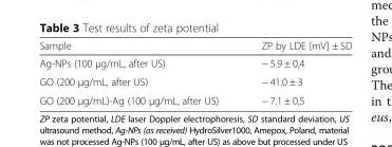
<table><thead><tr><td>Sample</td><td>ZP by LDE [mV] ± SD</td></tr></thead><tbody><tr><td>Ag-NPs (100 μg/mL, after US)</td><td>− 5.9 ± 0,4</td></tr><tr><td>GO (200 μg/mL, after US)</td><td>− 41.0 ± 3</td></tr><tr><td>GO (200 μg/mL)-Ag (100 μg/mL, after US)</td><td>− 7.1 ± 0,5</td></tr></tbody></table>